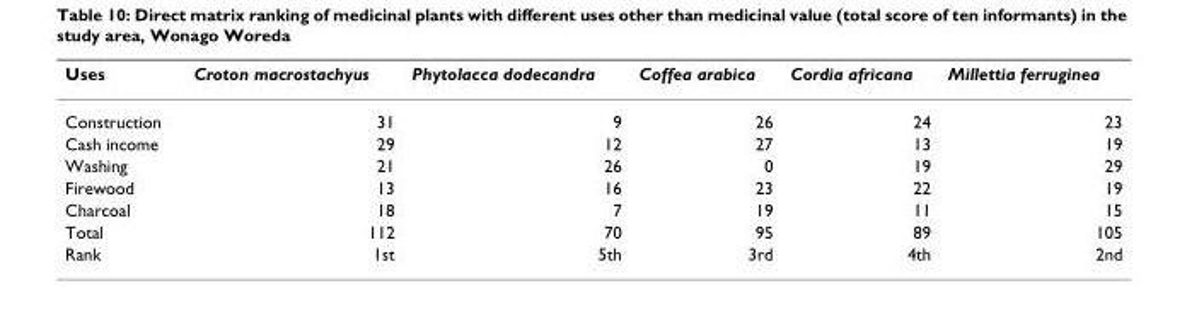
<table><thead><tr><td>Uses</td><td>Croton macrostachyus</td><td>Phytolacca dodecandra</td><td>Coffea arabica</td><td>Cordia africana</td><td>Millettia ferruginea</td></tr></thead><tbody><tr><td>Construction</td><td>31</td><td>9</td><td>26</td><td>24</td><td>23</td></tr><tr><td>Cash income</td><td>29</td><td>12</td><td>27</td><td>13</td><td>19</td></tr><tr><td>Washing</td><td>21</td><td>26</td><td>0</td><td>19</td><td>29</td></tr><tr><td>Firewood</td><td>13</td><td>16</td><td>23</td><td>22</td><td>19</td></tr><tr><td>Charcoal</td><td>18</td><td>7</td><td>19</td><td>11</td><td>15</td></tr><tr><td>Total</td><td>112</td><td>70</td><td>95</td><td>89</td><td>105</td></tr><tr><td>Rank</td><td>1st</td><td>5th</td><td>3rd</td><td>4th</td><td>2nd</td></tr></tbody></table>